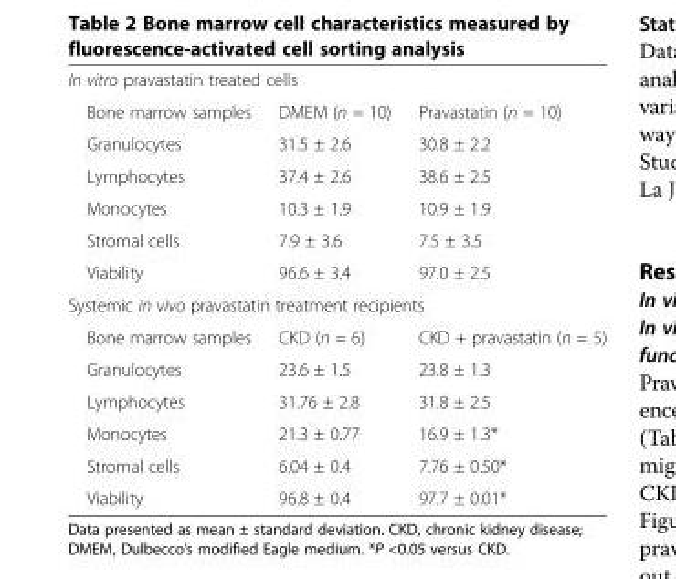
<table><tbody><tr><td colspan="3">In vitro pravastatin treated cells</td></tr><tr><td>Bone marrow samples</td><td>DMEM (n = 10)</td><td>Pravastatin (n = 10)</td></tr><tr><td>Granulocytes</td><td>31.5 ± 2.6</td><td>30.8 ± 2.2</td></tr><tr><td>Lymphocytes</td><td>37.4 ± 2.6</td><td>38.6 ± 2.5</td></tr><tr><td>Monocytes</td><td>10.3 ± 1.9</td><td>10.9 ± 1.9</td></tr><tr><td>Stromal cells</td><td>7.9 ± 3.6</td><td>7.5 ± 3.5</td></tr><tr><td>Viability</td><td>96.6 ± 3.4</td><td>97.0 ± 2.5</td></tr><tr><td colspan="3">Systemic in vivo pravastatin treatment recipients</td></tr><tr><td>Bone marrow samples</td><td>CKD (n = 6)</td><td>CKD + pravastatin (n = 5)</td></tr><tr><td>Granulocytes</td><td>23.6 ± 1.5</td><td>23.8 ± 1.3</td></tr><tr><td>Lymphocytes</td><td>31.76 ± 2.8</td><td>31.8 ± 2.5</td></tr><tr><td>Monocytes</td><td>21.3 ± 0.77</td><td>16.9 ± 1.3*</td></tr><tr><td>Stromal cells</td><td>6.04 ± 0.4</td><td>7.76 ± 0.50*</td></tr><tr><td>Viability</td><td>96.8 ± 0.4</td><td>97.7 ± 0.01*</td></tr></tbody></table>